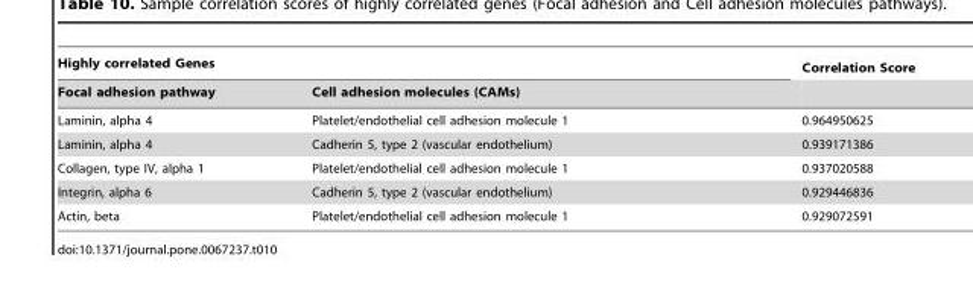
<table><thead><tr><td colspan="2">Highly correlated Genes</td><td rowspan="2">Correlation Score</td></tr><tr><td>Focal adhesion pathway</td><td>Cell adhesion molecules (CAMs)</td></tr></thead><tbody><tr><td>Laminin, alpha 4</td><td>Platelet/endothelial cell adhesion molecule 1</td><td>0.964950625</td></tr><tr><td>Laminin, alpha 4</td><td>Cadherin 5, type 2 (vascular endothelium)</td><td>0.939171386</td></tr><tr><td>Collagen, type IV, alpha 1</td><td>Platelet/endothelial cell adhesion molecule 1</td><td>0.937020588</td></tr><tr><td>Integrin, alpha 6</td><td>Cadherin 5, type 2 (vascular endothelium)</td><td>0.929446836</td></tr><tr><td>Actin, beta</td><td>Platelet/endothelial cell adhesion molecule 1</td><td>0.929072591</td></tr></tbody></table>